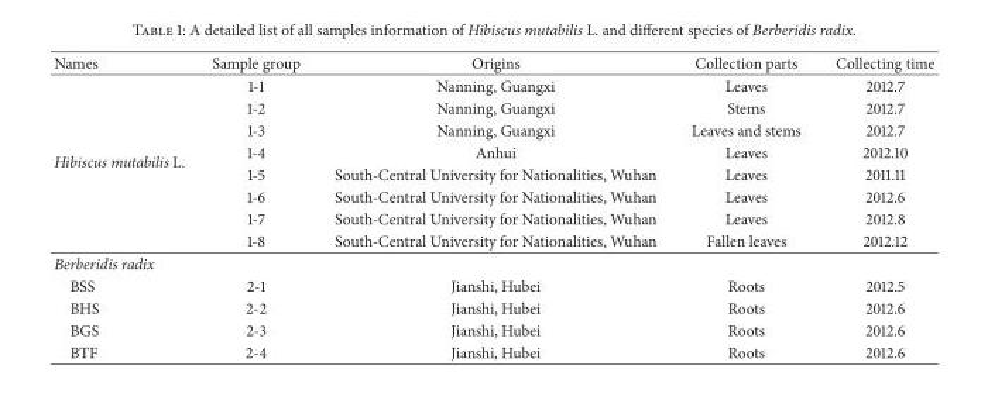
<table><thead><tr><td>Names</td><td>Sample group</td><td>Origins</td><td>Collection parts</td><td>Collecting time</td></tr></thead><tbody><tr><td rowspan="8">Hibiscus mutabilis L.</td><td>1-1</td><td>Nanning, Guangxi</td><td>Leaves</td><td>2012.7</td></tr><tr><td>1-2</td><td>Nanning, Guangxi</td><td>Stems</td><td>2012.7</td></tr><tr><td>1-3</td><td>Nanning, Guangxi</td><td>Leaves and stems</td><td>2012.7</td></tr><tr><td>1-4</td><td>Anhui</td><td>Leaves</td><td>2012.10</td></tr><tr><td>1-5</td><td>South-Central University for Nationalities, Wuhan</td><td>Leaves</td><td>2011.11</td></tr><tr><td>1-6</td><td>South-Central University for Nationalities, Wuhan</td><td>Leaves</td><td>2012.6</td></tr><tr><td>1-7</td><td>South-Central University for Nationalities, Wuhan</td><td>Leaves</td><td>2012.8</td></tr><tr><td>1-8</td><td>South-Central University for Nationalities, Wuhan</td><td>Fallen leaves</td><td>2012.12</td></tr><tr><td colspan="5">Berberidis radix</td></tr><tr><td>BSS</td><td>2-1</td><td>Jianshi, Hubei</td><td>Roots</td><td>2012.5</td></tr><tr><td>BHS</td><td>2-2</td><td>Jianshi, Hubei</td><td>Roots</td><td>2012.6</td></tr><tr><td>BGS</td><td>2-3</td><td>Jianshi, Hubei</td><td>Roots</td><td>2012.6</td></tr><tr><td>BTF</td><td>2-4</td><td>Jianshi, Hubei</td><td>Roots</td><td>2012.6</td></tr></tbody></table>